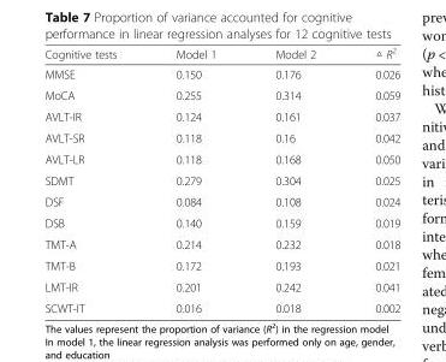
<table><thead><tr><td>Cognitive tests</td><td>Model 1</td><td>Model 2</td><td>△ R<sup>2</sup></td></tr></thead><tbody><tr><td>MMSE</td><td>0.150</td><td>0.176</td><td>0.026</td></tr><tr><td>MoCA</td><td>0.255</td><td>0.314</td><td>0.059</td></tr><tr><td>AVLT-IR</td><td>0.124</td><td>0.161</td><td>0.037</td></tr><tr><td>AVLT-SR</td><td>0.118</td><td>0.16</td><td>0.042</td></tr><tr><td>AVLT-LR</td><td>0.118</td><td>0.168</td><td>0.050</td></tr><tr><td>SDMT</td><td>0.279</td><td>0.304</td><td>0.025</td></tr><tr><td>DSF</td><td>0.084</td><td>0.108</td><td>0.024</td></tr><tr><td>DSB</td><td>0.140</td><td>0.159</td><td>0.019</td></tr><tr><td>TMT-A</td><td>0.214</td><td>0.232</td><td>0.018</td></tr><tr><td>TMT-B</td><td>0.172</td><td>0.193</td><td>0.021</td></tr><tr><td>LMT-IR</td><td>0.201</td><td>0.242</td><td>0.041</td></tr><tr><td>SCWT-IT</td><td>0.016</td><td>0.018</td><td>0.002</td></tr></tbody></table>